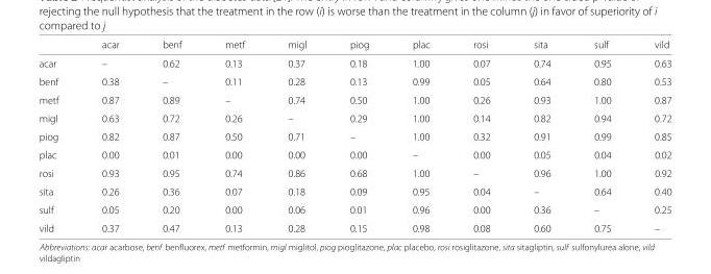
<table><thead><tr><td></td><td>acar</td><td>benf</td><td>metf</td><td>migl</td><td>piog</td><td>plac</td><td>rosi</td><td>sita</td><td>sulf</td><td>vild</td></tr></thead><tbody><tr><td>acar</td><td>–</td><td>0.62</td><td>0.13</td><td>0.37</td><td>0.18</td><td>1.00</td><td>0.07</td><td>0.74</td><td>0.95</td><td>0.63</td></tr><tr><td>benf</td><td>0.38</td><td>–</td><td>0.11</td><td>0.28</td><td>0.13</td><td>0.99</td><td>0.05</td><td>0.64</td><td>0.80</td><td>0.53</td></tr><tr><td>metf</td><td>0.87</td><td>0.89</td><td>–</td><td>0.74</td><td>0.50</td><td>1.00</td><td>0.26</td><td>0.93</td><td>1.00</td><td>0.87</td></tr><tr><td>migl</td><td>0.63</td><td>0.72</td><td>0.26</td><td>–</td><td>0.29</td><td>1.00</td><td>0.14</td><td>0.82</td><td>0.94</td><td>0.72</td></tr><tr><td>piog</td><td>0.82</td><td>0.87</td><td>0.50</td><td>0.71</td><td>–</td><td>1.00</td><td>0.32</td><td>0.91</td><td>0.99</td><td>0.85</td></tr><tr><td>plac</td><td>0.00</td><td>0.01</td><td>0.00</td><td>0.00</td><td>0.00</td><td>–</td><td>0.00</td><td>0.05</td><td>0.04</td><td>0.02</td></tr><tr><td>rosi</td><td>0.93</td><td>0.95</td><td>0.74</td><td>0.86</td><td>0.68</td><td>1.00</td><td>–</td><td>0.96</td><td>1.00</td><td>0.92</td></tr><tr><td>sita</td><td>0.26</td><td>0.36</td><td>0.07</td><td>0.18</td><td>0.09</td><td>0.95</td><td>0.04</td><td>–</td><td>0.64</td><td>0.40</td></tr><tr><td>sulf</td><td>0.05</td><td>0.20</td><td>0.00</td><td>0.06</td><td>0.01</td><td>0.96</td><td>0.00</td><td>0.36</td><td>–</td><td>0.25</td></tr><tr><td>vild</td><td>0.37</td><td>0.47</td><td>0.13</td><td>0.28</td><td>0.15</td><td>0.98</td><td>0.08</td><td>0.60</td><td>0.75</td><td>–</td></tr></tbody></table>